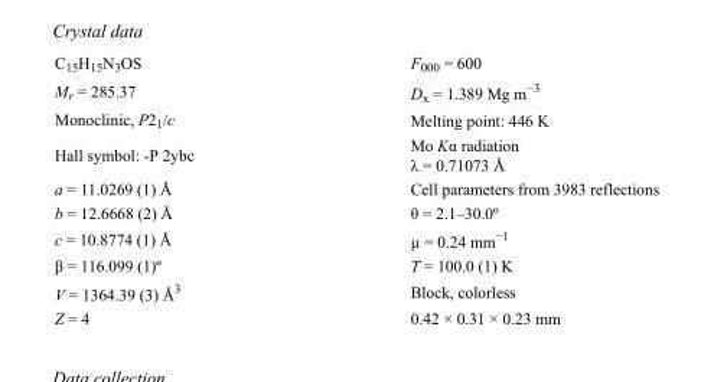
<table><tbody><tr><td>C<sub>15</sub>H<sub>15</sub>N<sub>3</sub>OS</td><td>F<sub>000</sub> = 600</td></tr><tr><td>M<sub>r</sub> = 285.37</td><td>D<sub>x</sub> = 1.389 Mg m<sup>−3</sup></td></tr><tr><td>Monoclinic, P2<sub>1</sub>/c</td><td>Melting point: 446 K</td></tr><tr><td>Hall symbol: -P 2ybc</td><td>Mo Kα radiation λ = 0.71073 Å</td></tr><tr><td>a = 11.0269 (1) Å</td><td>Cell parameters from 3983 reflections</td></tr><tr><td>b = 12.6668 (2) Å</td><td>θ = 2.1–30.0º</td></tr><tr><td>c = 10.8774 (1) Å</td><td>µ = 0.24 mm<sup>−1</sup></td></tr><tr><td>β = 116.099 (1)º</td><td>T = 100.0 (1) K</td></tr><tr><td>V = 1364.39 (3) Å<sup>3</sup></td><td>Block, colorless</td></tr><tr><td>Z = 4</td><td>0.42 × 0.31 × 0.23 mm</td></tr></tbody></table>